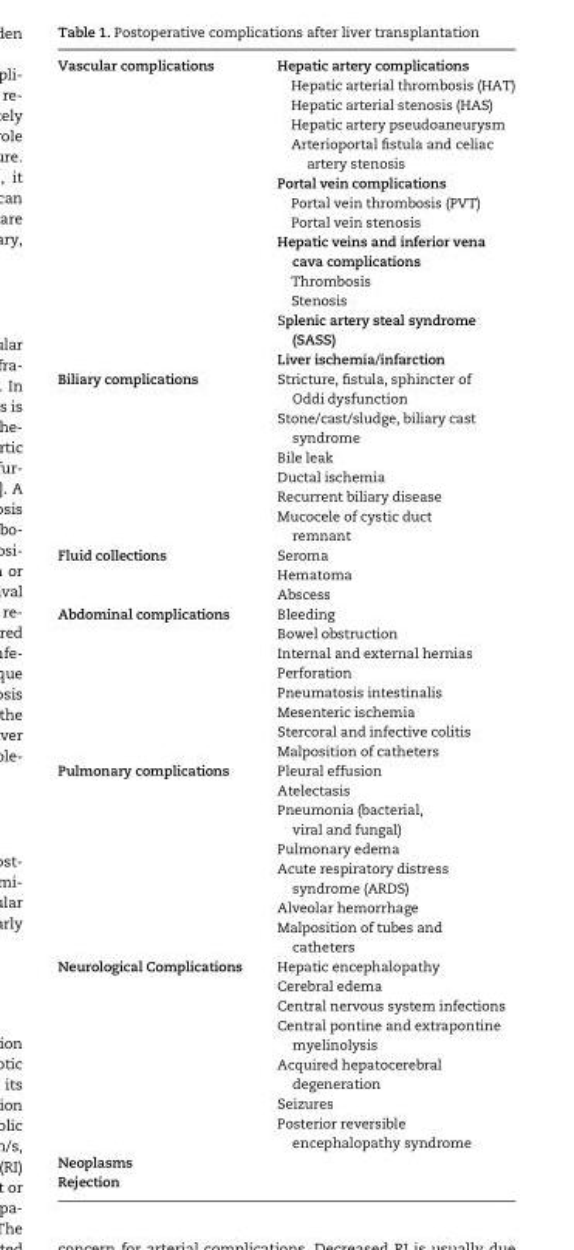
<table><tbody><tr><td>Vascular complications</td><td>Hepatic artery complications Hepatic arterial thrombosis (HAT) Hepatic arterial stenosis (HAS) Hepatic artery pseudoaneurysm Arterioportal fistula and celiac artery stenosis Portal vein complications Portal vein thrombosis (PVT) Portal vein stenosis Hepatic veins and inferior vena cava complications Thrombosis Stenosis Splenic artery steal syndrome (SASS) Liver ischemia/infarction</td></tr><tr><td>Biliary complications</td><td>Stricture, fistula, sphincter of Oddi dysfunction Stone/cast/sludge, biliary cast syndrome Bile leak Ductal ischemia Recurrent biliary disease Mucocele of cystic duct remnant</td></tr><tr><td>Fluid collections</td><td>Seroma Hematoma Abscess</td></tr><tr><td>Abdominal complications</td><td>Bleeding Bowel obstruction Internal and external hernias Perforation Pneumatosis intestinalis Mesenteric ischemia Stercoral and infective colitis Malposition of catheters</td></tr><tr><td>Pulmonary complications</td><td>Pleural effusion Atelectasis Pneumonia (bacterial, viral and fungal) Pulmonary edema Acute respiratory distress syndrome (ARDS) Alveolar hemorrhage Malposition of tubes and catheters</td></tr><tr><td>Neurological Complications</td><td>Hepatic encephalopathy Cerebral edema Central nervous system infections Central pontine and extrapontine myelinolysis Acquired hepatocerebral degeneration Seizures Posterior reversible encephalopathy syndrome</td></tr><tr><td colspan="2">Neoplasms</td></tr><tr><td>Rejection</td><td></td></tr></tbody></table>